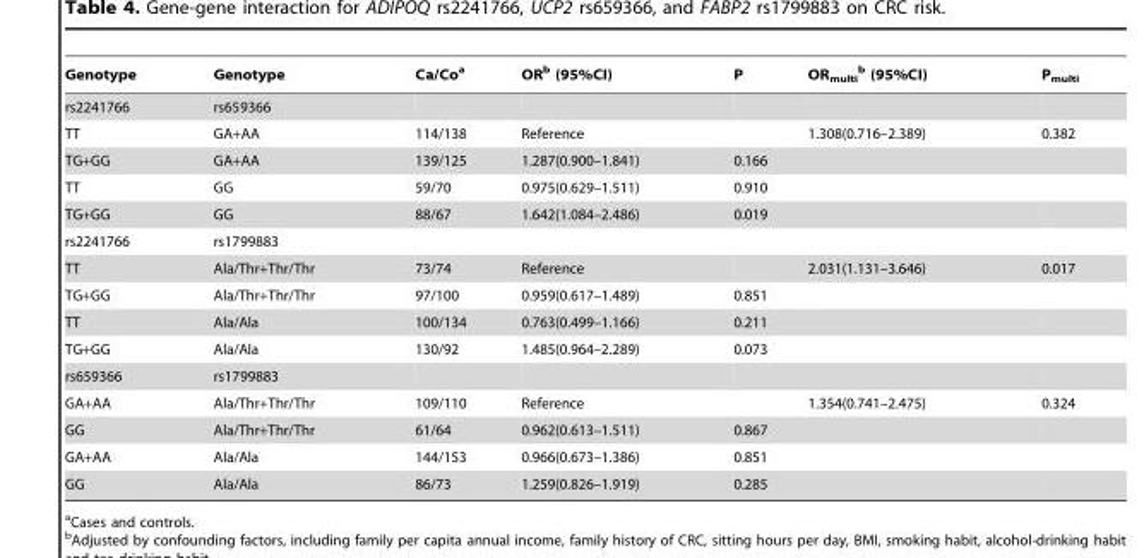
<table><thead><tr><td>Genotype</td><td>Genotype</td><td>Ca/Co<sup>a</sup></td><td>OR<sup>b</sup> (95%CI)</td><td>P</td><td>OR<sub>multi</sub> b (95%CI)</td><td>P<sub>multi</sub></td></tr></thead><tbody><tr><td>rs2241766</td><td>rs659366</td><td></td><td></td><td></td><td></td><td></td></tr><tr><td>TT</td><td>GA+AA</td><td>114/138</td><td>Reference</td><td></td><td>1.308(0.716–2.389)</td><td>0.382</td></tr><tr><td>TG+GG</td><td>GA+AA</td><td>139/125</td><td>1.287(0.900–1.841)</td><td>0.166</td><td></td><td></td></tr><tr><td>TT</td><td>GG</td><td>59/70</td><td>0.975(0.629–1.511)</td><td>0.910</td><td></td><td></td></tr><tr><td>TG+GG</td><td>GG</td><td>88/67</td><td>1.642(1.084–2.486)</td><td>0.019</td><td></td><td></td></tr><tr><td>rs2241766</td><td>rs1799883</td><td></td><td></td><td></td><td></td><td></td></tr><tr><td>TT</td><td>Ala/Thr+Thr/Thr</td><td>73/74</td><td>Reference</td><td></td><td>2.031(1.131–3.646)</td><td>0.017</td></tr><tr><td>TG+GG</td><td>Ala/Thr+Thr/Thr</td><td>97/100</td><td>0.959(0.617–1.489)</td><td>0.851</td><td></td><td></td></tr><tr><td>TT</td><td>Ala/Ala</td><td>100/134</td><td>0.763(0.499–1.166)</td><td>0.211</td><td></td><td></td></tr><tr><td>TG+GG</td><td>Ala/Ala</td><td>130/92</td><td>1.485(0.964–2.289)</td><td>0.073</td><td></td><td></td></tr><tr><td>rs659366</td><td>rs1799883</td><td></td><td></td><td></td><td></td><td></td></tr><tr><td>GA+AA</td><td>Ala/Thr+Thr/Thr</td><td>109/110</td><td>Reference</td><td></td><td>1.354(0.741–2.475)</td><td>0.324</td></tr><tr><td>GG</td><td>Ala/Thr+Thr/Thr</td><td>61/64</td><td>0.962(0.613–1.511)</td><td>0.867</td><td></td><td></td></tr><tr><td>GA+AA</td><td>Ala/Ala</td><td>144/153</td><td>0.966(0.673–1.386)</td><td>0.851</td><td></td><td></td></tr><tr><td>GG</td><td>Ala/Ala</td><td>86/73</td><td>1.259(0.826–1.919)</td><td>0.285</td><td></td><td></td></tr></tbody></table>